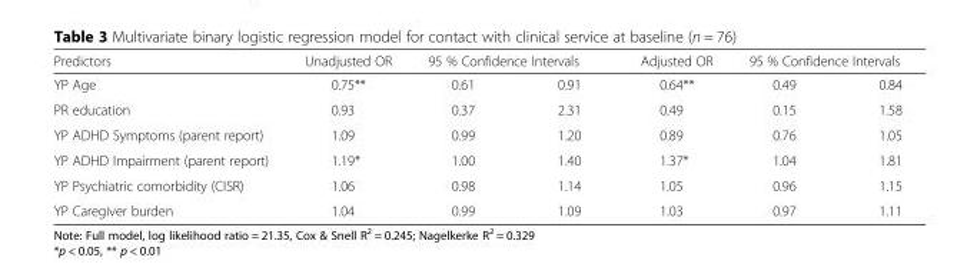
<table><thead><tr><td rowspan="2">Predictors YP Age</td><td rowspan="2">Unadjusted OR 0.75**</td><td colspan="2">95 % Confidence Intervals</td><td rowspan="2">Adjusted OR 0.64**</td><td colspan="2">95 % Confidence Intervals</td></tr><tr><td>0.61</td><td>0.91</td><td>0.49</td><td>0.84</td></tr></thead><tbody><tr><td>PR education</td><td>0.93</td><td>0.37</td><td>2.31</td><td>0.49</td><td>0.15</td><td>1.58</td></tr><tr><td>YP ADHD Symptoms (parent report)</td><td>1.09</td><td>0.99</td><td>1.20</td><td>0.89</td><td>0.76</td><td>1.05</td></tr><tr><td>YP ADHD Impairment (parent report)</td><td>1.19*</td><td>1.00</td><td>1.40</td><td>1.37*</td><td>1.04</td><td>1.81</td></tr><tr><td>YP Psychiatric comorbidity (CISR)</td><td>1.06</td><td>0.98</td><td>1.14</td><td>1.05</td><td>0.96</td><td>1.15</td></tr><tr><td>YP Caregiver burden</td><td>1.04</td><td>0.99</td><td>1.09</td><td>1.03</td><td>0.97</td><td>1.11</td></tr></tbody></table>